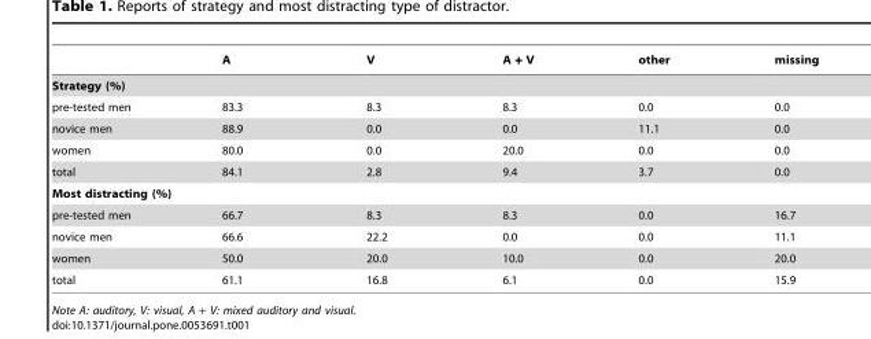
<table><thead><tr><td></td><td>A</td><td>V</td><td>A + V</td><td>other</td><td>missing</td></tr></thead><tbody><tr><td colspan="6">Strategy (%)</td></tr><tr><td>pre-tested men</td><td>83.3</td><td>8.3</td><td>8.3</td><td>0.0</td><td>0.0</td></tr><tr><td>novice men</td><td>88.9</td><td>0.0</td><td>0.0</td><td>11.1</td><td>0.0</td></tr><tr><td>women</td><td>80.0</td><td>0.0</td><td>20.0</td><td>0.0</td><td>0.0</td></tr><tr><td>total</td><td>84.1</td><td>2.8</td><td>9.4</td><td>3.7</td><td>0.0</td></tr><tr><td colspan="6">Most distracting (%)</td></tr><tr><td>pre-tested men</td><td>66.7</td><td>8.3</td><td>8.3</td><td>0.0</td><td>16.7</td></tr><tr><td>novice men</td><td>66.6</td><td>22.2</td><td>0.0</td><td>0.0</td><td>11.1</td></tr><tr><td>women</td><td>50.0</td><td>20.0</td><td>10.0</td><td>0.0</td><td>20.0</td></tr><tr><td>total</td><td>61.1</td><td>16.8</td><td>6.1</td><td>0.0</td><td>15.9</td></tr></tbody></table>